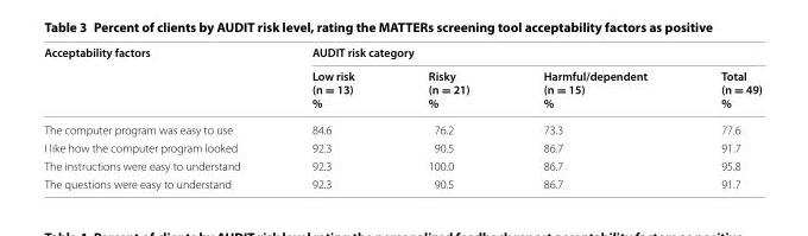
<table><thead><tr><td rowspan="2">Acceptability factors</td><td colspan="4">AUDIT risk category</td></tr><tr><td>Low risk (n = 13) %</td><td>Risky (n = 21) %</td><td>Harmful/dependent (n = 15) %</td><td>Total (n = 49) %</td></tr></thead><tbody><tr><td>The computer program was easy to use</td><td>84.6</td><td>76.2</td><td>73.3</td><td>77.6</td></tr><tr><td>I like how the computer program looked</td><td>92.3</td><td>90.5</td><td>86.7</td><td>91.7</td></tr><tr><td>The instructions were easy to understand</td><td>92.3</td><td>100.0</td><td>86.7</td><td>95.8</td></tr><tr><td>The questions were easy to understand</td><td>92.3</td><td>90.5</td><td>86.7</td><td>91.7</td></tr></tbody></table>